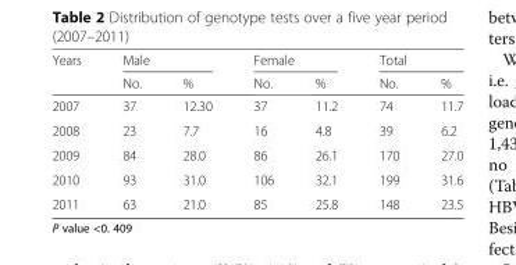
<table><thead><tr><td rowspan="2">Years</td><td colspan="2">Male</td><td colspan="2">Female</td><td colspan="2">Total</td></tr><tr><td>No.</td><td>%</td><td>No.</td><td>%</td><td>No.</td><td>%</td></tr></thead><tbody><tr><td>2007</td><td>37</td><td>12.30</td><td>37</td><td>11.2</td><td>74</td><td>11.7</td></tr><tr><td>2008</td><td>23</td><td>7.7</td><td>16</td><td>4.8</td><td>39</td><td>6.2</td></tr><tr><td>2009</td><td>84</td><td>28.0</td><td>86</td><td>26.1</td><td>170</td><td>27.0</td></tr><tr><td>2010</td><td>93</td><td>31.0</td><td>106</td><td>32.1</td><td>199</td><td>31.6</td></tr><tr><td>2011</td><td>63</td><td>21.0</td><td>85</td><td>25.8</td><td>148</td><td>23.5</td></tr></tbody></table>